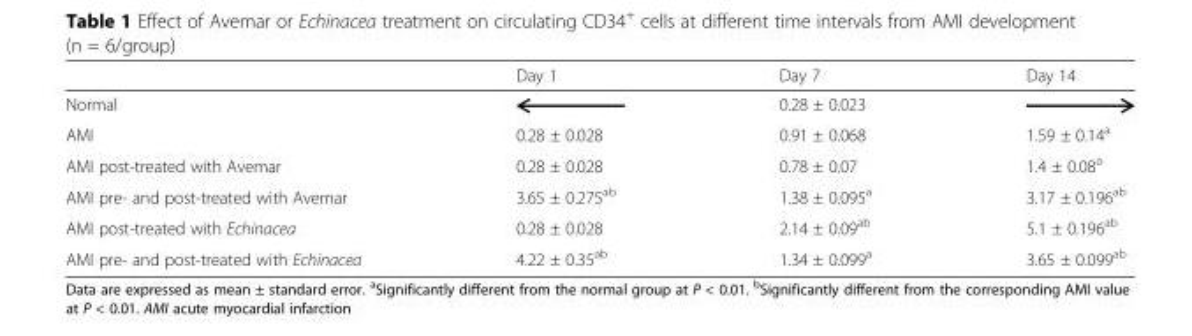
<table><thead><tr><td></td><td>Day 1</td><td>Day 7</td><td>Day 14</td></tr></thead><tbody><tr><td>Normal</td><td></td><td>0.28 ± 0.023</td><td></td></tr><tr><td>AMI</td><td>0.28 ± 0.028</td><td>0.91 ± 0.068</td><td>1.59 ± 0.14<sup>a</sup></td></tr><tr><td>AMI post-treated with Avemar</td><td>0.28 ± 0.028</td><td>0.78 ± 0.07</td><td>1.4 ± 0.08<sup>a</sup></td></tr><tr><td>AMI pre- and post-treated with Avemar</td><td>3.65 ± 0.275<sup>ab</sup></td><td>1.38 ± 0.095<sup>a</sup></td><td>3.17 ± 0.196<sup>ab</sup></td></tr><tr><td>AMI post-treated with Echinacea</td><td>0.28 ± 0.028</td><td>2.14 ± 0.09<sup>ab</sup></td><td>5.1 ± 0.196<sup>ab</sup></td></tr><tr><td>AMI pre- and post-treated with Echinacea</td><td>4.22 ± 0.35<sup>ab</sup></td><td>1.34 ± 0.099<sup>a</sup></td><td>3.65 ± 0.099<sup>ab</sup></td></tr></tbody></table>